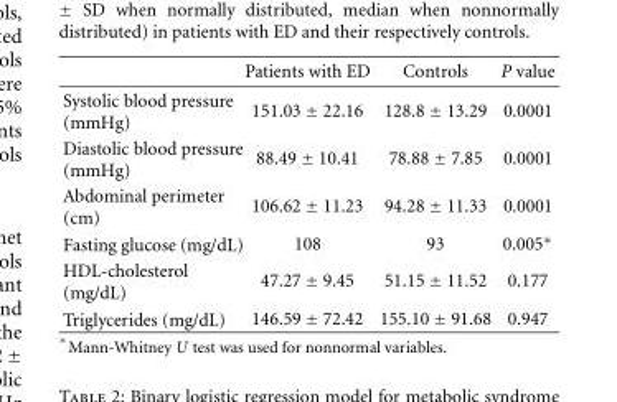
<table><thead><tr><td></td><td>Patients with ED</td><td>Controls</td><td>P value</td></tr></thead><tbody><tr><td>Systolic blood pressure (mmHg)</td><td>151.03 ± 22.16</td><td>128.8 ± 13.29</td><td>0.0001</td></tr><tr><td>Diastolic blood pressure (mmHg)</td><td>88.49 ± 10.41</td><td>78.88 ± 7.85</td><td>0.0001</td></tr><tr><td>Abdominal perimeter (cm)</td><td>106.62 ± 11.23</td><td>94.28 ± 11.33</td><td>0.0001</td></tr><tr><td>Fasting glucose (mg/dL)</td><td>108</td><td>93</td><td>0.005∗</td></tr><tr><td>HDL-cholesterol (mg/dL)</td><td>47.27 ± 9.45</td><td>51.15 ± 11.52</td><td>0.177</td></tr><tr><td>Triglycerides (mg/dL)</td><td>146.59 ± 72.42</td><td>155.10 ± 91.68</td><td>0.947</td></tr></tbody></table>